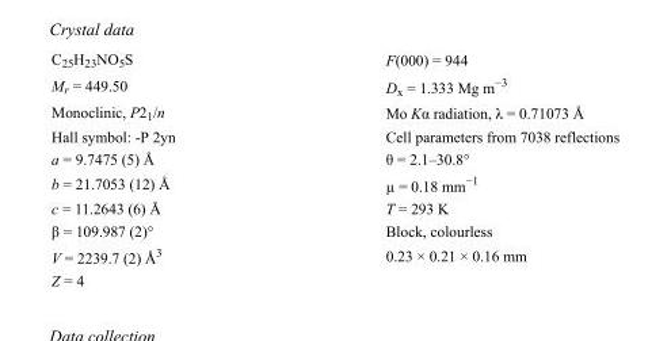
<table><tbody><tr><td>C<sub>25</sub>H<sub>23</sub>NO<sub>5</sub>S</td><td>F(000) = 944</td></tr><tr><td>M<sub>r</sub> = 449.50</td><td>D<sub>x</sub> = 1.333 Mg m<sup>−3</sup></td></tr><tr><td>Monoclinic, P2<sub>1</sub>/n</td><td>Mo Kα radiation, λ = 0.71073 Å</td></tr><tr><td>Hall symbol: -P 2yn</td><td>Cell parameters from 7038 reflections</td></tr><tr><td>a = 9.7475 (5) Å</td><td>θ = 2.1–30.8°</td></tr><tr><td>b = 21.7053 (12) Å</td><td>µ = 0.18 mm<sup>−1</sup></td></tr><tr><td>c = 11.2643 (6) Å</td><td>T = 293 K</td></tr><tr><td>β = 109.987 (2)°</td><td>Block, colourless</td></tr><tr><td>V = 2239.7 (2) Å<sup>3</sup></td><td>0.23 × 0.21 × 0.16 mm</td></tr><tr><td>Z = 4</td><td></td></tr></tbody></table>